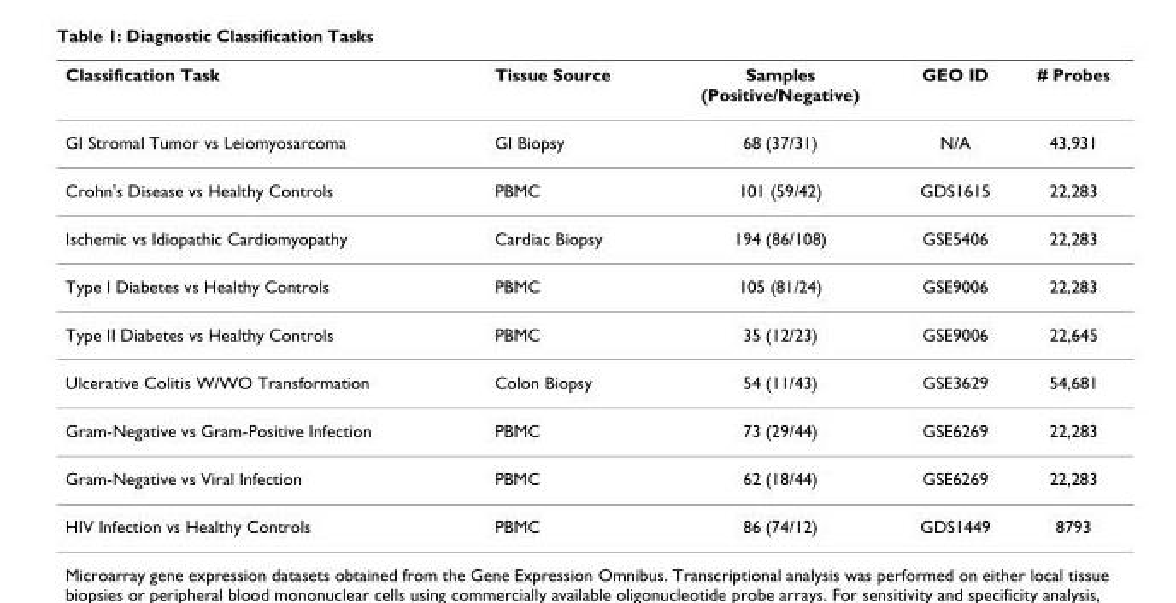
<table><thead><tr><td>Classification Task</td><td>Tissue Source</td><td>Samples (Positive/Negative)</td><td>GEO ID</td><td># Probes</td></tr></thead><tbody><tr><td>GI Stromal Tumor vs Leiomyosarcoma</td><td>GI Biopsy</td><td>68 (37/31)</td><td>N/A</td><td>43,931</td></tr><tr><td>Crohn&#x27;s Disease vs Healthy Controls</td><td>PBMC</td><td>101 (59/42)</td><td>GDS1615</td><td>22,283</td></tr><tr><td>Ischemic vs Idiopathic Cardiomyopathy</td><td>Cardiac Biopsy</td><td>194 (86/108)</td><td>GSE5406</td><td>22,283</td></tr><tr><td>Type I Diabetes vs Healthy Controls</td><td>PBMC</td><td>105 (81/24)</td><td>GSE9006</td><td>22,283</td></tr><tr><td>Type II Diabetes vs Healthy Controls</td><td>PBMC</td><td>35 (12/23)</td><td>GSE9006</td><td>22,645</td></tr><tr><td>Ulcerative Colitis W/WO Transformation</td><td>Colon Biopsy</td><td>54 (11/43)</td><td>GSE3629</td><td>54,681</td></tr><tr><td>Gram-Negative vs Gram-Positive Infection</td><td>PBMC</td><td>73 (29/44)</td><td>GSE6269</td><td>22,283</td></tr><tr><td>Gram-Negative vs Viral Infection</td><td>PBMC</td><td>62 (18/44)</td><td>GSE6269</td><td>22,283</td></tr><tr><td>HIV Infection vs Healthy Controls</td><td>PBMC</td><td>86 (74/12)</td><td>GDS1449</td><td>8793</td></tr></tbody></table>